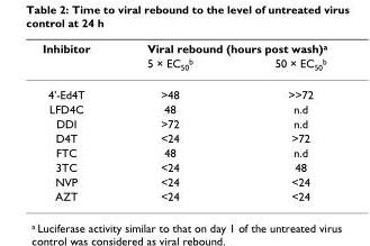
<table><thead><tr><td rowspan="2">Inhibitor</td><td colspan="2">Viral rebound (hours post wash)<sup>a</sup></td></tr><tr><td>5 × EC<sub>50</sub><sup>b</sup></td><td>50 × EC<sub>50</sub><sup>b</sup></td></tr></thead><tbody><tr><td>4&#x27;-Ed4T</td><td>&gt;48</td><td>&gt;&gt;72</td></tr><tr><td>LFD4C</td><td>48</td><td>n.d</td></tr><tr><td>DDI</td><td>&gt;72</td><td>n.d</td></tr><tr><td>D4T</td><td>&lt;24</td><td>&gt;72</td></tr><tr><td>FTC</td><td>48</td><td>n.d</td></tr><tr><td>3TC</td><td>&lt;24</td><td>48</td></tr><tr><td>NVP</td><td>&lt;24</td><td>&lt;24</td></tr><tr><td>AZT</td><td>&lt;24</td><td>&lt;24</td></tr></tbody></table>